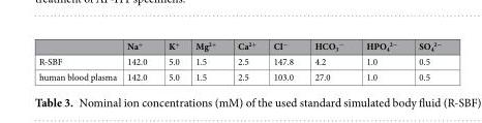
<table><thead><tr><td></td><td>Na<sup>+</sup></td><td>K<sup>+</sup></td><td>Mg<sup>2+</sup></td><td>Ca<sup>2+</sup></td><td>Cl<sup>−</sup></td><td>HCO<sub>3</sub> <sup>−</sup></td><td>HPO<sub>4</sub> <sup>2−</sup></td><td>SO<sub>4</sub> <sup>2−</sup></td></tr></thead><tbody><tr><td>R-SBF</td><td>142.0</td><td>5.0</td><td>1.5</td><td>2.5</td><td>147.8</td><td>4.2</td><td>1.0</td><td>0.5</td></tr><tr><td>human blood plasma</td><td>142.0</td><td>5.0</td><td>1.5</td><td>2.5</td><td>103.0</td><td>27.0</td><td>1.0</td><td>0.5</td></tr></tbody></table>